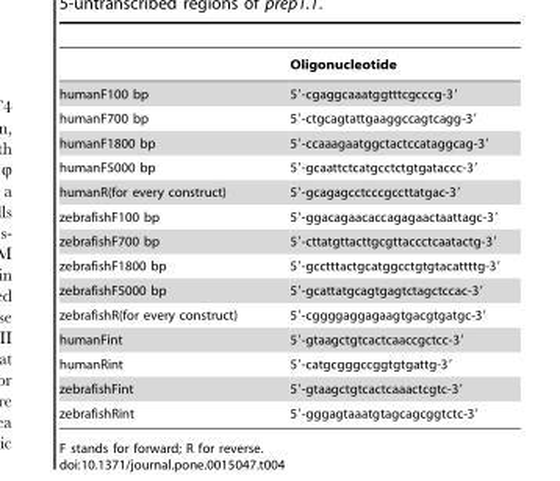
<table><thead><tr><td></td><td>Oligonucleotide</td></tr></thead><tbody><tr><td>humanF100 bp</td><td>5′-cgaggcaaatggtttcgcccg-3′</td></tr><tr><td>humanF700 bp</td><td>5′-ctgcagtattgaaggccagtcagg-3′</td></tr><tr><td>humanF1800 bp</td><td>5′-ccaaagaatggctactccataggcag-3′</td></tr><tr><td>humanF5000 bp</td><td>5′-gcaattctcatgcctctgtgataccc-3′</td></tr><tr><td>humanR(for every construct)</td><td>5′-gcagagcctcccgccttatgac-3′</td></tr><tr><td>zebrafishF100 bp</td><td>5′-ggacagaacaccagagaactaattagc-3′</td></tr><tr><td>zebrafishF700 bp</td><td>5′-cttatgttacttgcgttaccctcaatactg-3′</td></tr><tr><td>zebrafishF1800 bp</td><td>5′-gcctttactgcatggcctgtgtacattttg-3′</td></tr><tr><td>zebrafishF5000 bp</td><td>5′-gcattatgcagtgagtctagctccac-3′</td></tr><tr><td>zebrafishR(for every construct)</td><td>5′-cggggaggagaagtgacgtgatgc-3′</td></tr><tr><td>humanFint</td><td>5′-gtaagctgtcactcaaccgctcc-3′</td></tr><tr><td>humanRint</td><td>5′-catgcgggccggtgtgattg-3′</td></tr><tr><td>zebrafishFint</td><td>5′-gtaagctgtcactcaaactcgtc-3′</td></tr><tr><td>zebrafishRint</td><td>5′-gggagtaaatgtagcagcggtctc-3′</td></tr></tbody></table>